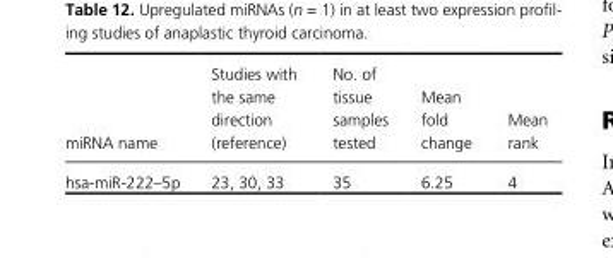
<table><thead><tr><td>miRNA name</td><td>Studies with the same direction (reference)</td><td>No. of tissue samples tested</td><td>Mean fold change</td><td>Mean rank</td></tr></thead><tbody><tr><td>hsa- miR- 222–5p</td><td>23, 30, 33</td><td>35</td><td>6.25</td><td>4</td></tr></tbody></table>